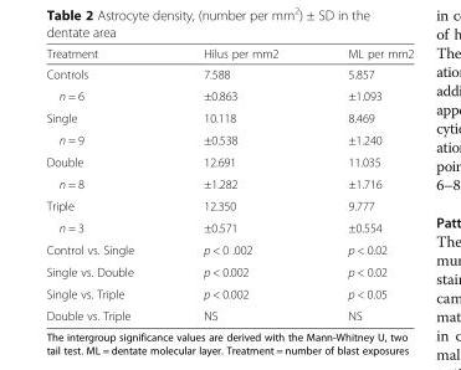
<table><thead><tr><td>Treatment</td><td>Hilus per mm2</td><td>ML per mm2</td></tr></thead><tbody><tr><td>Controls</td><td>7.588</td><td>5.857</td></tr><tr><td>n = 6</td><td>±0.863</td><td>±1.093</td></tr><tr><td>Single</td><td>10.118</td><td>8.469</td></tr><tr><td>n = 9</td><td>±0.538</td><td>±1.240</td></tr><tr><td>Double</td><td>12.691</td><td>11.035</td></tr><tr><td>n = 8</td><td>±1.282</td><td>±1.716</td></tr><tr><td>Triple</td><td>12.350</td><td>9.777</td></tr><tr><td>n = 3</td><td>±0.571</td><td>±0.554</td></tr><tr><td>Control vs. Single</td><td>p &lt; 0 .002</td><td>p &lt; 0.02</td></tr><tr><td>Single vs. Double</td><td>p &lt; 0.002</td><td>p &lt; 0.02</td></tr><tr><td>Single vs. Triple</td><td>p &lt; 0.002</td><td>p &lt; 0.05</td></tr><tr><td>Double vs. Triple</td><td>NS</td><td>NS</td></tr></tbody></table>